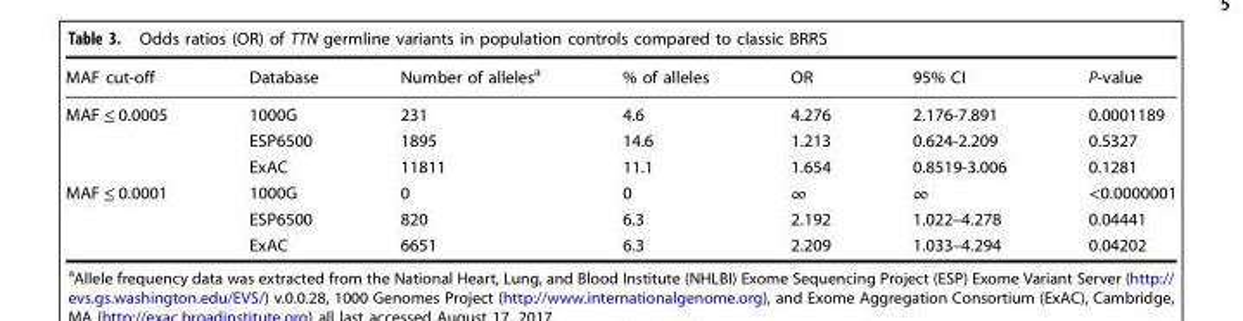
<table><thead><tr><td>MAF cut-off</td><td>Database</td><td>Number of alleles<sup>a</sup></td><td>% of alleles</td><td>OR</td><td>95% CI</td><td>P-value</td></tr></thead><tbody><tr><td rowspan="3">MAF ≤ 0.0005</td><td>1000G</td><td>231</td><td>4.6</td><td>4.276</td><td>2.176-7.891</td><td>0.0001189</td></tr><tr><td>ESP6500</td><td>1895</td><td>14.6</td><td>1.213</td><td>0.624-2.209</td><td>0.5327</td></tr><tr><td>ExAC</td><td>11811</td><td>11.1</td><td>1.654</td><td>0.8519-3.006</td><td>0.1281</td></tr><tr><td rowspan="3">MAF ≤ 0.0001</td><td>1000G</td><td>0</td><td>0</td><td>∞</td><td>∞</td><td>&lt;0.0000001</td></tr><tr><td>ESP6500</td><td>820</td><td>6.3</td><td>2.192</td><td>1.022–4.278</td><td>0.04441</td></tr><tr><td>ExAC</td><td>6651</td><td>6.3</td><td>2.209</td><td>1.033–4.294</td><td>0.04202</td></tr></tbody></table>